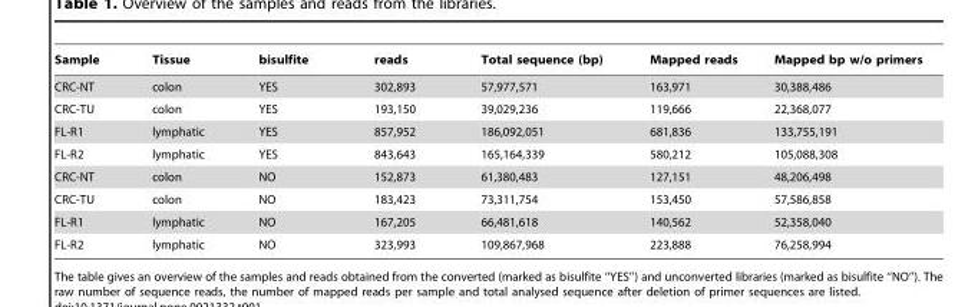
<table><thead><tr><td>Sample</td><td>Tissue</td><td>bisulfite</td><td>reads</td><td>Total sequence (bp)</td><td>Mapped reads</td><td>Mapped bp w/o primers</td></tr></thead><tbody><tr><td>CRC-NT</td><td>colon</td><td>YES</td><td>302,893</td><td>57,977,571</td><td>163,971</td><td>30,388,486</td></tr><tr><td>CRC-TU</td><td>colon</td><td>YES</td><td>193,150</td><td>39,029,236</td><td>119,666</td><td>22,368,077</td></tr><tr><td>FL-R1</td><td>lymphatic</td><td>YES</td><td>857,952</td><td>186,092,051</td><td>681,836</td><td>133,755,191</td></tr><tr><td>FL-R2</td><td>lymphatic</td><td>YES</td><td>843,643</td><td>165,164,339</td><td>580,212</td><td>105,088,308</td></tr><tr><td>CRC-NT</td><td>colon</td><td>NO</td><td>152,873</td><td>61,380,483</td><td>127,151</td><td>48,206,498</td></tr><tr><td>CRC-TU</td><td>colon</td><td>NO</td><td>183,423</td><td>73,311,754</td><td>153,450</td><td>57,586,858</td></tr><tr><td>FL-R1</td><td>lymphatic</td><td>NO</td><td>167,205</td><td>66,481,618</td><td>140,562</td><td>52,358,040</td></tr><tr><td>FL-R2</td><td>lymphatic</td><td>NO</td><td>323,993</td><td>109,867,968</td><td>223,888</td><td>76,258,994</td></tr></tbody></table>